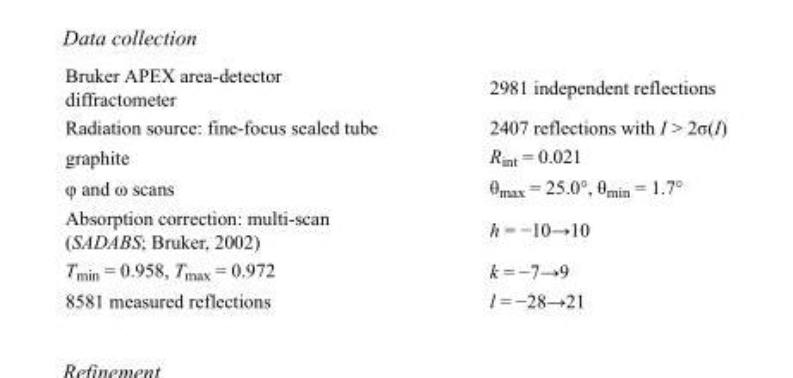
<table><tbody><tr><td>Bruker APEX area-detector diffractometer</td><td>2981 independent reflections</td></tr><tr><td>Radiation source: fine-focus sealed tube</td><td>2407 reflections with I &gt; 2σ(I)</td></tr><tr><td>graphite</td><td>R<sub>int</sub> = 0.021</td></tr><tr><td>φ and ω scans</td><td>θ<sub>max</sub> = 25.0°, θ<sub>min</sub> = 1.7°</td></tr><tr><td>Absorption correction: multi-scan (SADABS; Bruker, 2002)</td><td>h = −10→10</td></tr><tr><td>T<sub>min</sub> = 0.958, T<sub>max</sub> = 0.972</td><td>k = −7→9</td></tr><tr><td>8581 measured reflections</td><td>l = −28→21</td></tr></tbody></table>